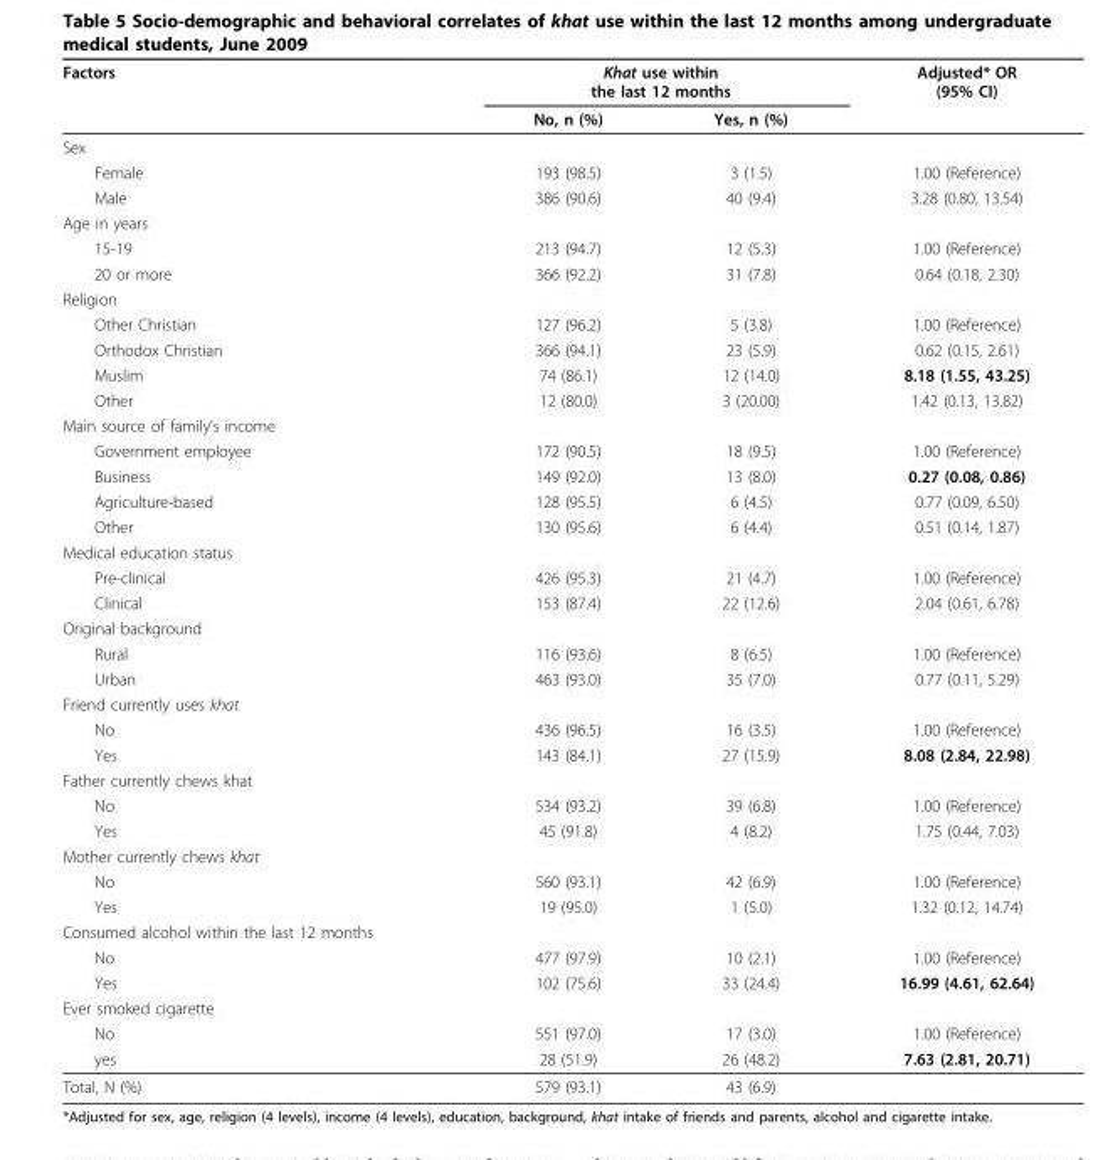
<table><thead><tr><td rowspan="2">Factors</td><td colspan="2">Khat use within the last 12 months</td><td rowspan="2">Adjusted* OR (95% CI)</td></tr><tr><td>No, n (%)</td><td>Yes, n (%)</td></tr></thead><tbody><tr><td colspan="4">Sex</td></tr><tr><td>Female</td><td>193 (98.5)</td><td>3 (1.5)</td><td>1.00 (Reference)</td></tr><tr><td>Male</td><td>386 (90.6)</td><td>40 (9.4)</td><td>3.28 (0.80, 13.54)</td></tr><tr><td colspan="4">Age in years</td></tr><tr><td>15-19</td><td>213 (94.7)</td><td>12 (5.3)</td><td>1.00 (Reference)</td></tr><tr><td>20 or more</td><td>366 (92.2)</td><td>31 (7.8)</td><td>0.64 (0.18, 2.30)</td></tr><tr><td colspan="4">Religion</td></tr><tr><td>Other Christian</td><td>127 (96.2)</td><td>5 (3.8)</td><td>1.00 (Reference)</td></tr><tr><td>Orthodox Christian</td><td>366 (94.1)</td><td>23 (5.9)</td><td>0.62 (0.15, 2.61)</td></tr><tr><td>Muslim</td><td>74 (86.1)</td><td>12 (14.0)</td><td>8.18 (1.55, 43.25)</td></tr><tr><td>Other</td><td>12 (80.0)</td><td>3 (20.00)</td><td>1.42 (0.13, 13.82)</td></tr><tr><td colspan="4">Main source of family’s income</td></tr><tr><td>Government employee</td><td>172 (90.5)</td><td>18 (9.5)</td><td>1.00 (Reference)</td></tr><tr><td>Business</td><td>149 (92.0)</td><td>13 (8.0)</td><td>0.27 (0.08, 0.86)</td></tr><tr><td>Agriculture-based</td><td>128 (95.5)</td><td>6 (4.5)</td><td>0.77 (0.09, 6.50)</td></tr><tr><td>Other</td><td>130 (95.6)</td><td>6 (4.4)</td><td>0.51 (0.14, 1.87)</td></tr><tr><td colspan="4">Medical education status</td></tr><tr><td>Pre-clinical</td><td>426 (95.3)</td><td>21 (4.7)</td><td>1.00 (Reference)</td></tr><tr><td>Clinical</td><td>153 (87.4)</td><td>22 (12.6)</td><td>2.04 (0.61, 6.78)</td></tr><tr><td colspan="4">Original background</td></tr><tr><td>Rural</td><td>116 (93.6)</td><td>8 (6.5)</td><td>1.00 (Reference)</td></tr><tr><td>Urban</td><td>463 (93.0)</td><td>35 (7.0)</td><td>0.77 (0.11, 5.29)</td></tr><tr><td colspan="4">Friend currently uses khat</td></tr><tr><td>No</td><td>436 (96.5)</td><td>16 (3.5)</td><td>1.00 (Reference)</td></tr><tr><td>Yes</td><td>143 (84.1)</td><td>27 (15.9)</td><td>8.08 (2.84, 22.98)</td></tr><tr><td colspan="4">Father currently chews khat</td></tr><tr><td>No</td><td>534 (93.2)</td><td>39 (6.8)</td><td>1.00 (Reference)</td></tr><tr><td>Yes</td><td>45 (91.8)</td><td>4 (8.2)</td><td>1.75 (0.44, 7.03)</td></tr><tr><td colspan="4">Mother currently chews khat</td></tr><tr><td>No</td><td>560 (93.1)</td><td>42 (6.9)</td><td>1.00 (Reference)</td></tr><tr><td>Yes</td><td>19 (95.0)</td><td>1 (5.0)</td><td>1.32 (0.12, 14.74)</td></tr><tr><td colspan="4">Consumed alcohol within the last 12 months</td></tr><tr><td>No</td><td>477 (97.9)</td><td>10 (2.1)</td><td>1.00 (Reference)</td></tr><tr><td>Yes</td><td>102 (75.6)</td><td>33 (24.4)</td><td>16.99 (4.61, 62.64)</td></tr><tr><td colspan="4">Ever smoked cigarette</td></tr><tr><td>No</td><td>551 (97.0)</td><td>17 (3.0)</td><td>1.00 (Reference)</td></tr><tr><td>yes</td><td>28 (51.9)</td><td>26 (48.2)</td><td>7.63 (2.81, 20.71)</td></tr><tr><td>Total, N (%)</td><td>579 (93.1)</td><td>43 (6.9)</td><td></td></tr></tbody></table>